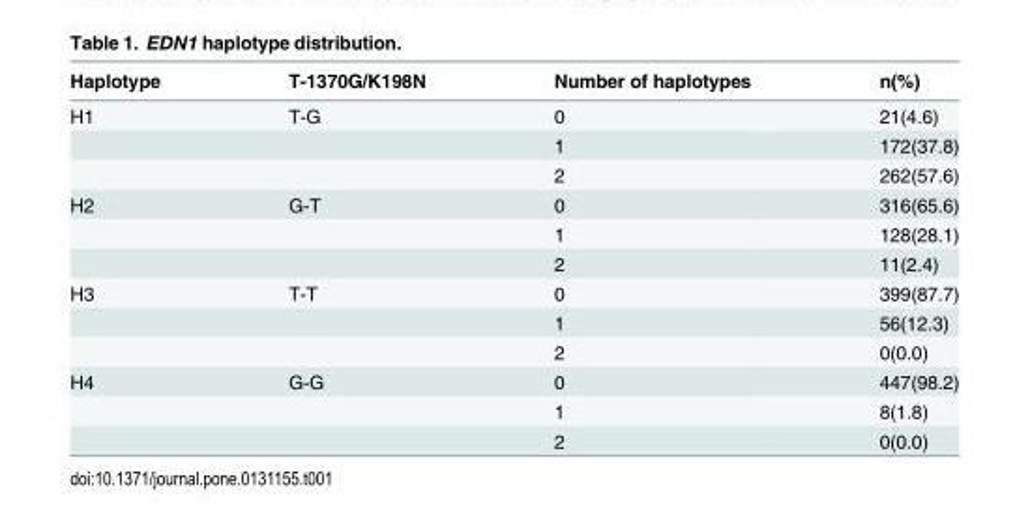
<table><thead><tr><td>Haplotype</td><td>T-1370G/K198N</td><td>Number of haplotypes</td><td>n(%)</td></tr></thead><tbody><tr><td rowspan="3">H1</td><td>T-G</td><td>0</td><td>21(4.6)</td></tr><tr><td></td><td>1</td><td>172(37.8)</td></tr><tr><td></td><td>2</td><td>262(57.6)</td></tr><tr><td rowspan="3">H2</td><td>G-T</td><td>0</td><td>316(65.6)</td></tr><tr><td></td><td>1</td><td>128(28.1)</td></tr><tr><td></td><td>2</td><td>11(2.4)</td></tr><tr><td rowspan="3">H3</td><td>T-T</td><td>0</td><td>399(87.7)</td></tr><tr><td></td><td>1</td><td>56(12.3)</td></tr><tr><td></td><td>2</td><td>0(0.0)</td></tr><tr><td rowspan="3">H4</td><td>G-G</td><td>0</td><td>447(98.2)</td></tr><tr><td></td><td>1</td><td>8(1.8)</td></tr><tr><td></td><td>2</td><td>0(0.0)</td></tr></tbody></table>